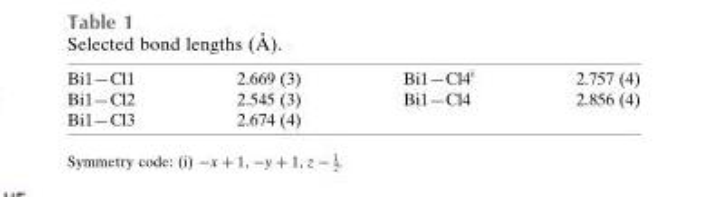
<table><tbody><tr><td>Bi1—Cl1</td><td>2.669 (3)</td><td>Bi1—Cl4<sup>i</sup></td><td>2.757 (4)</td></tr><tr><td>Bi1—Cl2</td><td>2.545 (3)</td><td>Bi1—Cl4</td><td>2.856 (4)</td></tr><tr><td>Bi1—Cl3</td><td>2.674 (4)</td><td></td><td></td></tr></tbody></table>